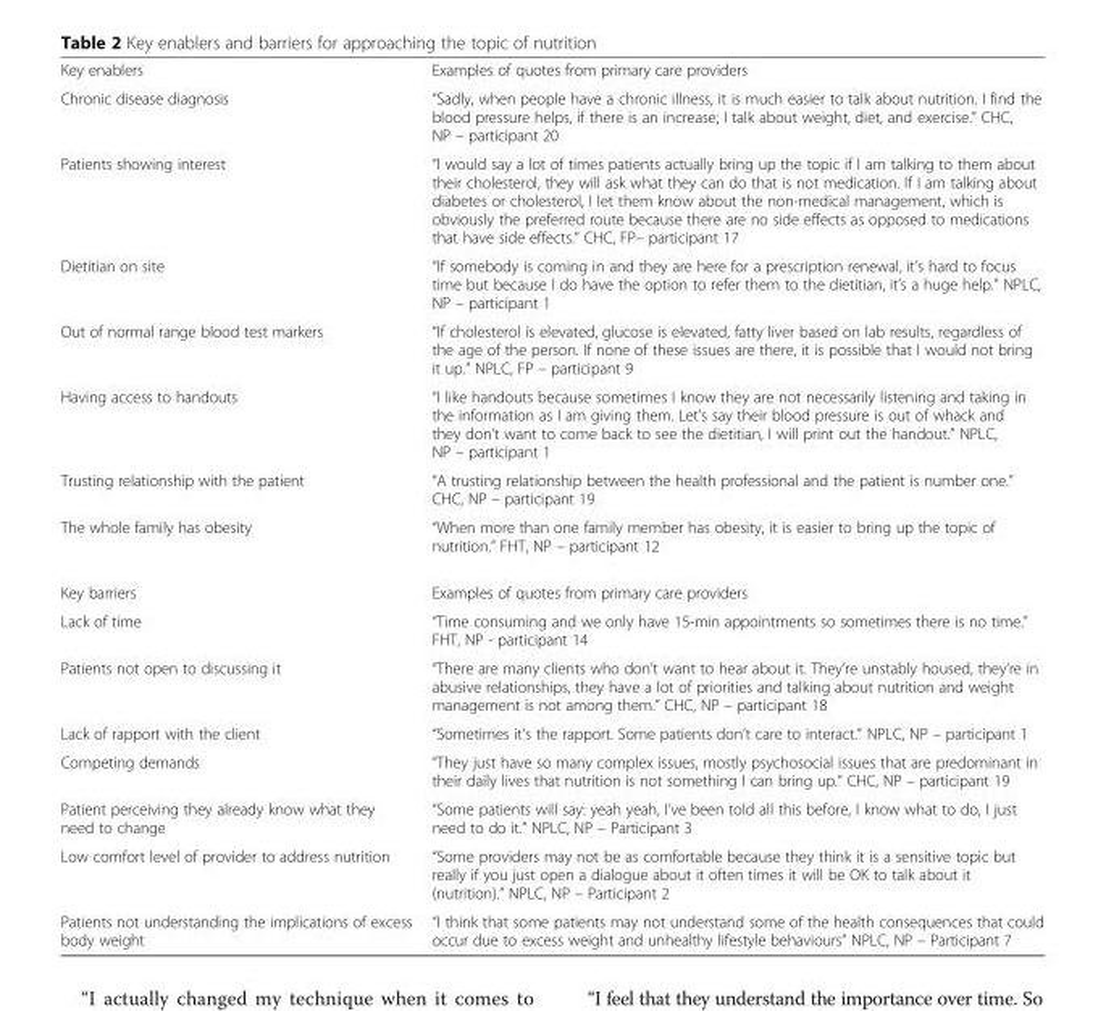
<table><tbody><tr><td>Key enablers</td><td>Examples of quotes from primary care providers</td></tr><tr><td>Chronic disease diagnosis</td><td>“Sadly, when people have a chronic illness, it is much easier to talk about nutrition. I find the blood pressure helps, if there is an increase; I talk about weight, diet, and exercise.” CHC, NP – participant 20</td></tr><tr><td>Patients showing interest</td><td>“I would say a lot of times patients actually bring up the topic if I am talking to them about their cholesterol, they will ask what they can do that is not medication. If I am talking about diabetes or cholesterol, I let them know about the non-medical management, which is obviously the preferred route because there are no side effects as opposed to medications that have side effects.” CHC, FP– participant 17</td></tr><tr><td>Dietitian on site</td><td>“If somebody is coming in and they are here for a prescription renewal, it’s hard to focus time but because I do have the option to refer them to the dietitian, it’s a huge help.” NPLC, NP – participant 1</td></tr><tr><td>Out of normal range blood test markers</td><td>“If cholesterol is elevated, glucose is elevated, fatty liver based on lab results, regardless of the age of the person. If none of these issues are there, it is possible that I would not bring it up.” NPLC, FP – participant 9</td></tr><tr><td>Having access to handouts</td><td>“I like handouts because sometimes I know they are not necessarily listening and taking in the information as I am giving them. Let’s say their blood pressure is out of whack and they don’t want to come back to see the dietitian, I will print out the handout.” NPLC, NP – participant 1</td></tr><tr><td>Trusting relationship with the patient</td><td>“A trusting relationship between the health professional and the patient is number one.” CHC, NP – participant 19</td></tr><tr><td>The whole family has obesity</td><td>“When more than one family member has obesity, it is easier to bring up the topic of nutrition.” FHT, NP – participant 12</td></tr><tr><td>Key barriers</td><td>Examples of quotes from primary care providers</td></tr><tr><td>Lack of time</td><td>“Time consuming and we only have 15-min appointments so sometimes there is no time.” FHT, NP - participant 14</td></tr><tr><td>Patients not open to discussing it</td><td>“There are many clients who don’t want to hear about it. They’re unstably housed, they’re in abusive relationships, they have a lot of priorities and talking about nutrition and weight management is not among them.” CHC, NP – participant 18</td></tr><tr><td>Lack of rapport with the client</td><td>“Sometimes it’s the rapport. Some patients don’t care to interact.” NPLC, NP – participant 1</td></tr><tr><td>Competing demands</td><td>“They just have so many complex issues, mostly psychosocial issues that are predominant in their daily lives that nutrition is not something I can bring up.” CHC, NP – participant 19</td></tr><tr><td>Patient perceiving they already know what they need to change</td><td>“Some patients will say: yeah yeah, I’ve been told all this before, I know what to do, I just need to do it.” NPLC, NP – Participant 3</td></tr><tr><td>Low comfort level of provider to address nutrition</td><td>“Some providers may not be as comfortable because they think it is a sensitive topic but really if you just open a dialogue about it often times it will be OK to talk about it (nutrition).” NPLC, NP – Participant 2</td></tr><tr><td>Patients not understanding the implications of excess body weight</td><td>“I think that some patients may not understand some of the health consequences that could occur due to excess weight and unhealthy lifestyle behaviours” NPLC, NP – Participant 7</td></tr></tbody></table>